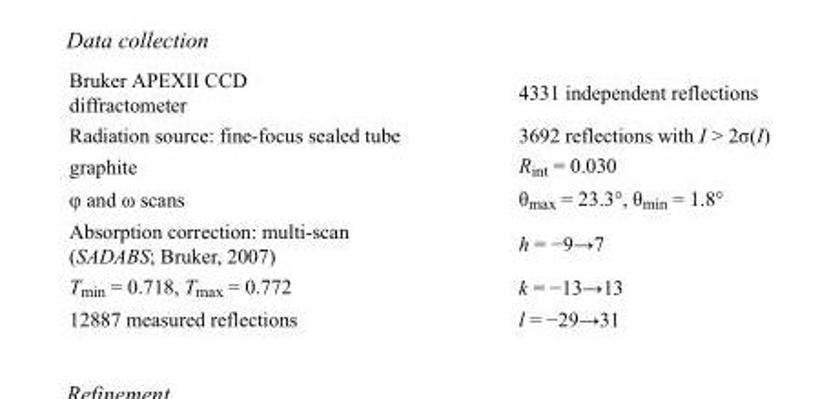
<table><tbody><tr><td>Bruker APEXII CCD diffractometer</td><td>4331 independent reflections</td></tr><tr><td>Radiation source: fine-focus sealed tube</td><td>3692 reflections with I &gt; 2σ(I)</td></tr><tr><td>graphite</td><td>R<sub>int</sub> = 0.030</td></tr><tr><td>φ and ω scans</td><td>θ<sub>max</sub> = 23.3°, θ<sub>min</sub> = 1.8°</td></tr><tr><td>Absorption correction: multi-scan (SADABS; Bruker, 2007)</td><td>h = −9→7</td></tr><tr><td>T<sub>min</sub> = 0.718, T<sub>max</sub> = 0.772</td><td>k = −13→13</td></tr><tr><td>12887 measured reflections</td><td>l = −29→31</td></tr></tbody></table>